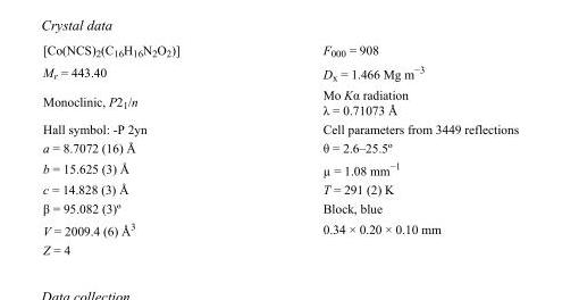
<table><tbody><tr><td>[Co(NCS)<sub>2</sub>(C<sub>16</sub>H<sub>16</sub>N<sub>2</sub>O<sub>2</sub>)]</td><td>F000 = 908</td></tr><tr><td>M<sub>r</sub> = 443.40</td><td>D<sub>x</sub> = 1.466 Mg m<sup>−3</sup></td></tr><tr><td>Monoclinic, P2<sub>1</sub>/n</td><td>Mo Kα radiation λ = 0.71073 Å</td></tr><tr><td>Hall symbol: -P 2yn</td><td>Cell parameters from 3449 reflections</td></tr><tr><td>a = 8.7072 (16) Å</td><td>θ = 2.6–25.5º</td></tr><tr><td>b = 15.625 (3) Å</td><td>µ = 1.08 mm<sup>−1</sup></td></tr><tr><td>c = 14.828 (3) Å</td><td>T = 291 (2) K</td></tr><tr><td>β = 95.082 (3)º</td><td>Block, blue</td></tr><tr><td>V = 2009.4 (6) Å<sup>3</sup></td><td>0.34 × 0.20 × 0.10 mm</td></tr><tr><td>Z = 4</td><td></td></tr></tbody></table>